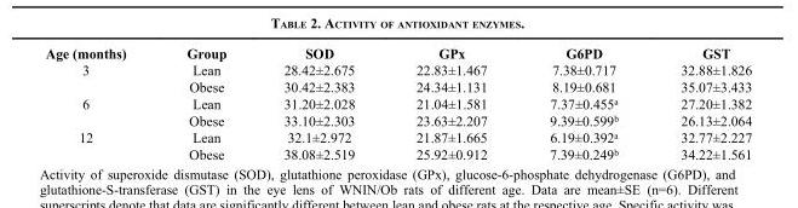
<table><thead><tr><td>Age (months)</td><td>Group</td><td>SOD</td><td>GPx</td><td>G6PD</td><td>GST</td></tr></thead><tbody><tr><td rowspan="2">3</td><td>Lean</td><td>28.42±2.675</td><td>22.83±1.467</td><td>7.38±0.717</td><td>32.88±1.826</td></tr><tr><td>Obese</td><td>30.42±2.383</td><td>24.34±1.131</td><td>8.19±0.681</td><td>35.07±3.433</td></tr><tr><td rowspan="2">6</td><td>Lean</td><td>31.20±2.028</td><td>21.04±1.581</td><td>7.37±0.455<sup>a</sup></td><td>27.20±1.382</td></tr><tr><td>Obese</td><td>33.10±2.303</td><td>23.63±2.207</td><td>9.39±0.599<sup>b</sup></td><td>26.13±2.064</td></tr><tr><td rowspan="2">12</td><td>Lean</td><td>32.1±2.972</td><td>21.87±1.665</td><td>6.19±0.392<sup>a</sup></td><td>32.77±2.227</td></tr><tr><td>Obese</td><td>38.08±2.519</td><td>25.92±0.912</td><td>7.39±0.249<sup>b</sup></td><td>34.22±1.561</td></tr></tbody></table>